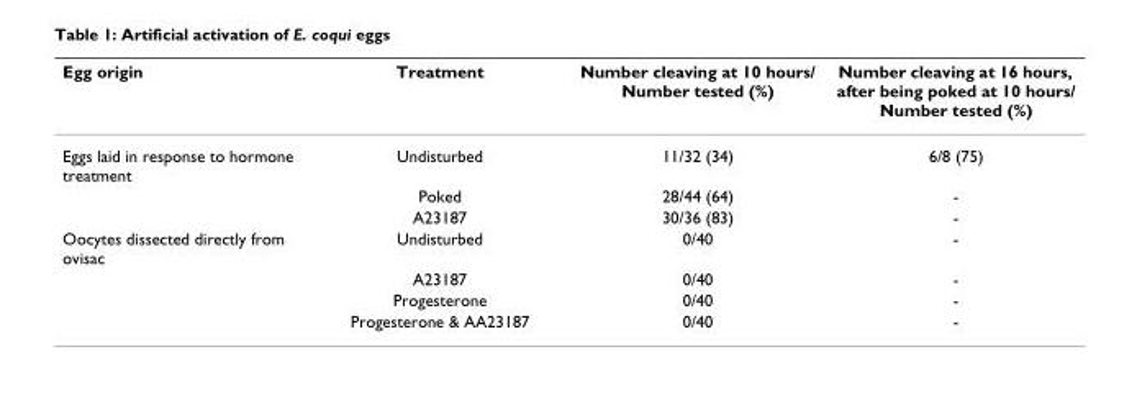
<table><thead><tr><td>Egg origin</td><td>Treatment</td><td>Number cleaving at 10 hours/ Number tested (%)</td><td>Number cleaving at 16 hours, after being poked at 10 hours/ Number tested (%)</td></tr></thead><tbody><tr><td rowspan="3">Eggs laid in response to hormone treatment</td><td>Undisturbed</td><td>11/32 (34)</td><td>6/8 (75)</td></tr><tr><td>Poked</td><td>28/44 (64)</td><td>-</td></tr><tr><td>A23187</td><td>30/36 (83)</td><td>-</td></tr><tr><td rowspan="4">Oocytes dissected directly from ovisac</td><td>Undisturbed</td><td>0/40</td><td>-</td></tr><tr><td>A23187</td><td>0/40</td><td>-</td></tr><tr><td>Progesterone</td><td>0/40</td><td>-</td></tr><tr><td>Progesterone &amp; AA23187</td><td>0/40</td><td>-</td></tr></tbody></table>